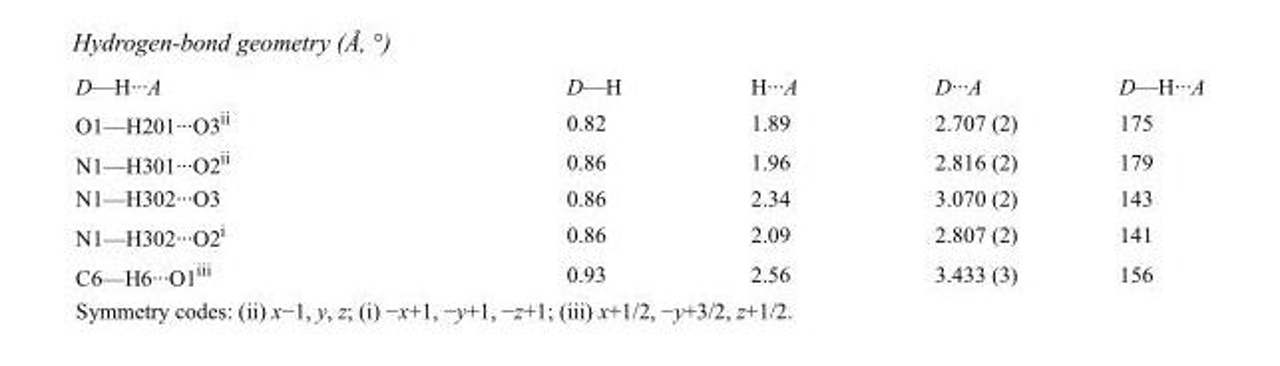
<table><tbody><tr><td>D—H···A</td><td>D—H</td><td>H···A</td><td>D···A</td><td>D—H···A</td></tr><tr><td>O1—H201···O3<sup>ii</sup></td><td>0.82</td><td>1.89</td><td>2.707 (2)</td><td>175</td></tr><tr><td>N1—H301···O2<sup>ii</sup></td><td>0.86</td><td>1.96</td><td>2.816 (2)</td><td>179</td></tr><tr><td>N1—H302···O3</td><td>0.86</td><td>2.34</td><td>3.070 (2)</td><td>143</td></tr><tr><td>N1—H302···O2<sup>i</sup></td><td>0.86</td><td>2.09</td><td>2.807 (2)</td><td>141</td></tr><tr><td>C6—H6···O1<sup>iii</sup></td><td>0.93</td><td>2.56</td><td>3.433 (3)</td><td>156</td></tr></tbody></table>